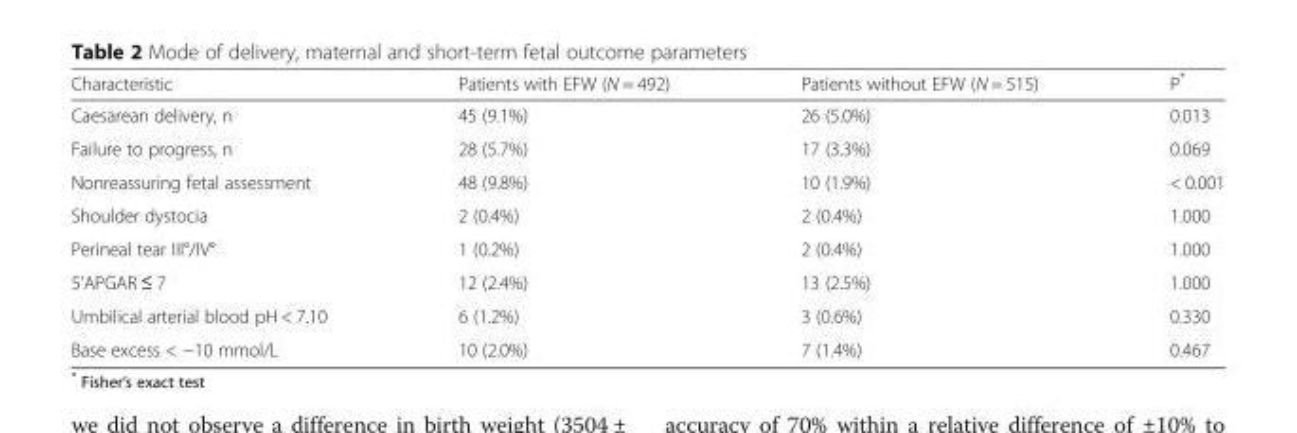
<table><thead><tr><td>Characteristic</td><td>Patients with EFW (N = 492)</td><td>Patients without EFW (N = 515)</td><td>P*</td></tr></thead><tbody><tr><td>Caesarean delivery, n</td><td>45 (9.1%)</td><td>26 (5.0%)</td><td>0.013</td></tr><tr><td>Failure to progress, n</td><td>28 (5.7%)</td><td>17 (3.3%)</td><td>0.069</td></tr><tr><td>Nonreassuring fetal assessment</td><td>48 (9.8%)</td><td>10 (1.9%)</td><td>&lt; 0.001</td></tr><tr><td>Shoulder dystocia</td><td>2 (0.4%)</td><td>2 (0.4%)</td><td>1.000</td></tr><tr><td>Perineal tear III°/IV°</td><td>1 (0.2%)</td><td>2 (0.4%)</td><td>1.000</td></tr><tr><td>5’APGAR ≤ 7</td><td>12 (2.4%)</td><td>13 (2.5%)</td><td>1.000</td></tr><tr><td>Umbilical arterial blood pH &lt; 7.10</td><td>6 (1.2%)</td><td>3 (0.6%)</td><td>0.330</td></tr><tr><td>Base excess &lt; −10 mmol/L</td><td>10 (2.0%)</td><td>7 (1.4%)</td><td>0.467</td></tr></tbody></table>